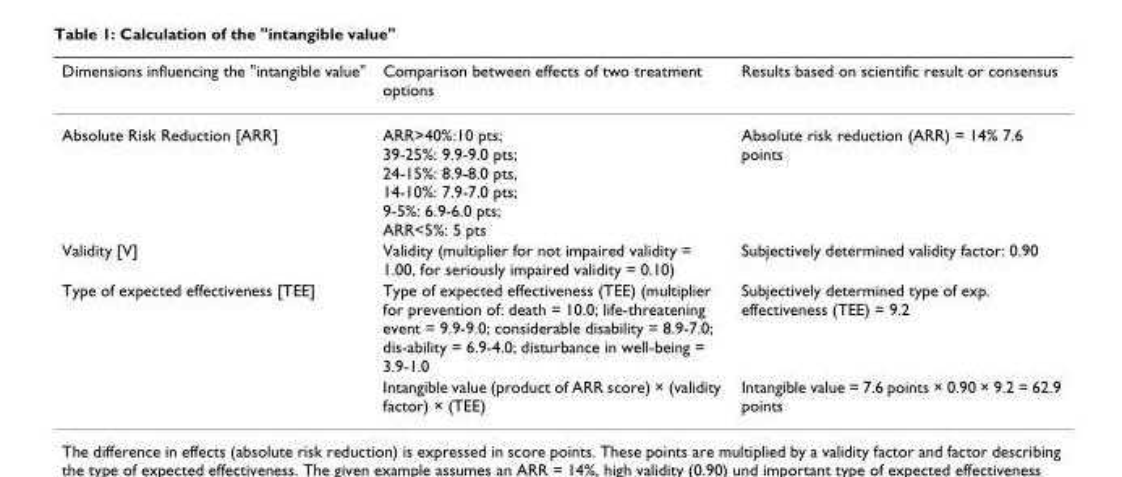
<table><thead><tr><td>Dimensions influencing the &quot;intangible value&quot;</td><td>Comparison between effects of two treatment options</td><td>Results based on scientific result or consensus</td></tr></thead><tbody><tr><td>Absolute Risk Reduction [ARR]</td><td>ARR&gt;40%:10 pts; 39-25%: 9.9-9.0 pts; 24-15%: 8.9-8.0 pts, 14-10%: 7.9-7.0 pts; 9-5%: 6.9-6.0 pts; ARR&lt;5%: 5 pts</td><td>Absolute risk reduction (ARR) = 14% 7.6 points</td></tr><tr><td>Validity [V]</td><td>Validity (multiplier for not impaired validity = 1.00, for seriously impaired validity = 0.10)</td><td>Subjectively determined validity factor: 0.90</td></tr><tr><td rowspan="2">Type of expected effectiveness [TEE]</td><td>Type of expected effectiveness (TEE) (multiplier for prevention of: death = 10.0; life-threatening event = 9.9-9.0; considerable disability = 8.9-7.0; dis-ability = 6.9-4.0; disturbance in well-being = 3.9-1.0</td><td>Subjectively determined type of exp. effectiveness (TEE) = 9.2</td></tr><tr><td>Intangible value (product of ARR score) × (validity factor) × (TEE)</td><td>Intangible value = 7.6 points × 0.90 × 9.2 = 62.9 points</td></tr></tbody></table>